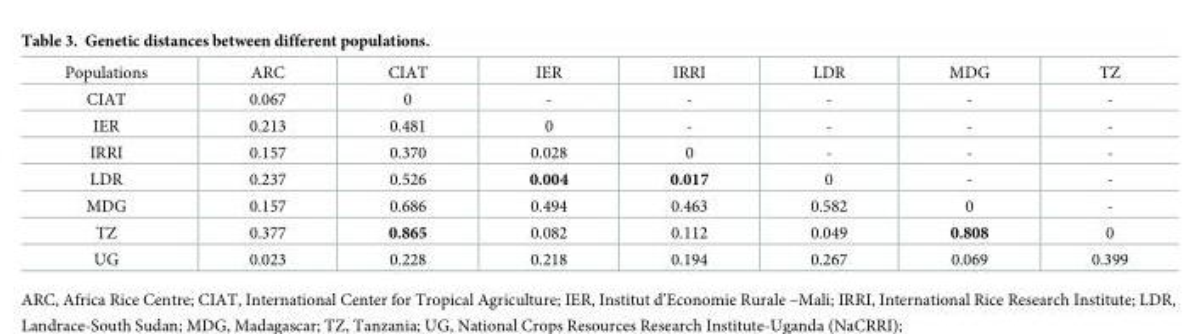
<table><tbody><tr><td>Populations</td><td>ARC</td><td>CIAT</td><td>IER</td><td>IRRI</td><td>LDR</td><td>MDG</td><td>TZ</td></tr><tr><td>CIAT</td><td>0.067</td><td>0</td><td>-</td><td>-</td><td>-</td><td>-</td><td>-</td></tr><tr><td>IER</td><td>0.213</td><td>0.481</td><td>0</td><td>-</td><td>-</td><td>-</td><td>-</td></tr><tr><td>IRRI</td><td>0.157</td><td>0.370</td><td>0.028</td><td>0</td><td>-</td><td>-</td><td>-</td></tr><tr><td>LDR</td><td>0.237</td><td>0.526</td><td>0.004</td><td>0.017</td><td>0</td><td>-</td><td>-</td></tr><tr><td>MDG</td><td>0.157</td><td>0.686</td><td>0.494</td><td>0.463</td><td>0.582</td><td>0</td><td>-</td></tr><tr><td>TZ</td><td>0.377</td><td>0.865</td><td>0.082</td><td>0.112</td><td>0.049</td><td>0.808</td><td>0</td></tr><tr><td>UG</td><td>0.023</td><td>0.228</td><td>0.218</td><td>0.194</td><td>0.267</td><td>0.069</td><td>0.399</td></tr></tbody></table>